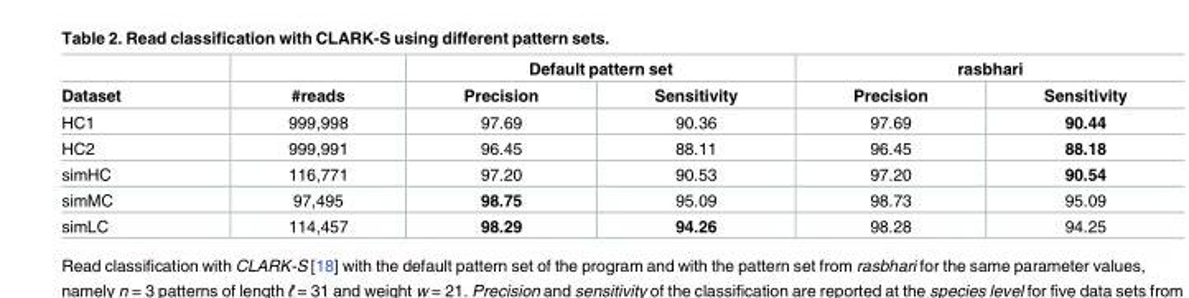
<table><thead><tr><td rowspan="2">Dataset</td><td rowspan="2">#reads</td><td colspan="2">Default pattern set</td><td colspan="2">rasbhari</td></tr><tr><td>Precision</td><td>Sensitivity</td><td>Precision</td><td>Sensitivity</td></tr></thead><tbody><tr><td>HC1</td><td>999,998</td><td>97.69</td><td>90.36</td><td>97.69</td><td>90.44</td></tr><tr><td>HC2</td><td>999,991</td><td>96.45</td><td>88.11</td><td>96.45</td><td>88.18</td></tr><tr><td>simHC</td><td>116,771</td><td>97.20</td><td>90.53</td><td>97.20</td><td>90.54</td></tr><tr><td>simMC</td><td>97,495</td><td>98.75</td><td>95.09</td><td>98.73</td><td>95.09</td></tr><tr><td>simLC</td><td>114,457</td><td>98.29</td><td>94.26</td><td>98.28</td><td>94.25</td></tr></tbody></table>